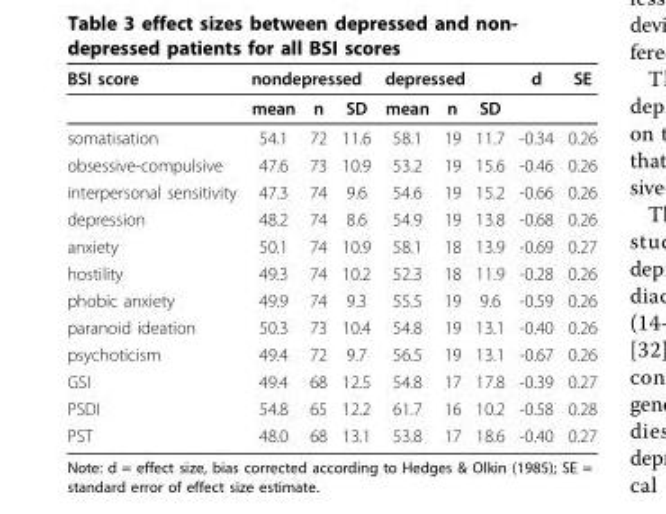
<table><thead><tr><td rowspan="2">BSI score</td><td colspan="3">nondepressed</td><td colspan="3">depressed</td><td rowspan="2">d</td><td rowspan="2">SE</td></tr><tr><td>mean</td><td>n</td><td>SD</td><td>mean</td><td>n</td><td>SD</td></tr></thead><tbody><tr><td>somatisation</td><td>54.1</td><td>72</td><td>11.6</td><td>58.1</td><td>19</td><td>11.7</td><td>-0.34</td><td>0.26</td></tr><tr><td>obsessive-compulsive</td><td>47.6</td><td>73</td><td>10.9</td><td>53.2</td><td>19</td><td>15.6</td><td>-0.46</td><td>0.26</td></tr><tr><td>interpersonal sensitivity</td><td>47.3</td><td>74</td><td>9.6</td><td>54.6</td><td>19</td><td>15.2</td><td>-0.66</td><td>0.26</td></tr><tr><td>depression</td><td>48.2</td><td>74</td><td>8.6</td><td>54.9</td><td>19</td><td>13.8</td><td>-0.68</td><td>0.26</td></tr><tr><td>anxiety</td><td>50.1</td><td>74</td><td>10.9</td><td>58.1</td><td>18</td><td>13.9</td><td>-0.69</td><td>0.27</td></tr><tr><td>hostility</td><td>49.3</td><td>74</td><td>10.2</td><td>52.3</td><td>18</td><td>11.9</td><td>-0.28</td><td>0.26</td></tr><tr><td>phobic anxiety</td><td>49.9</td><td>74</td><td>9.3</td><td>55.5</td><td>19</td><td>9.6</td><td>-0.59</td><td>0.26</td></tr><tr><td>paranoid ideation</td><td>50.3</td><td>73</td><td>10.4</td><td>54.8</td><td>19</td><td>13.1</td><td>-0.40</td><td>0.26</td></tr><tr><td>psychoticism</td><td>49.4</td><td>72</td><td>9.7</td><td>56.5</td><td>19</td><td>13.1</td><td>-0.67</td><td>0.26</td></tr><tr><td>GSI</td><td>49.4</td><td>68</td><td>12.5</td><td>54.8</td><td>17</td><td>17.8</td><td>-0.39</td><td>0.27</td></tr><tr><td>PSDI</td><td>54.8</td><td>65</td><td>12.2</td><td>61.7</td><td>16</td><td>10.2</td><td>-0.58</td><td>0.28</td></tr><tr><td>PST</td><td>48.0</td><td>68</td><td>13.1</td><td>53.8</td><td>17</td><td>18.6</td><td>-0.40</td><td>0.27</td></tr></tbody></table>